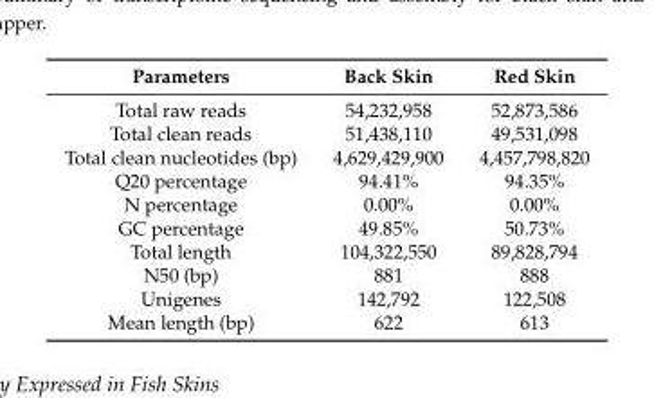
<table><thead><tr><td>Parameters</td><td>Back Skin</td><td>Red Skin</td></tr></thead><tbody><tr><td>Total raw reads</td><td>54,232,958</td><td>52,873,586</td></tr><tr><td>Total clean reads</td><td>51,438,110</td><td>49,531,098</td></tr><tr><td>Total clean nucleotides (bp)</td><td>4,629,429,900</td><td>4,457,798,820</td></tr><tr><td>Q20 percentage</td><td>94.41%</td><td>94.35%</td></tr><tr><td>N percentage</td><td>0.00%</td><td>0.00%</td></tr><tr><td>GC percentage</td><td>49.85%</td><td>50.73%</td></tr><tr><td>Total length</td><td>104,322,550</td><td>89,828,794</td></tr><tr><td>N50 (bp)</td><td>881</td><td>888</td></tr><tr><td>Unigenes</td><td>142,792</td><td>122,508</td></tr><tr><td>Mean length (bp)</td><td>622</td><td>613</td></tr></tbody></table>